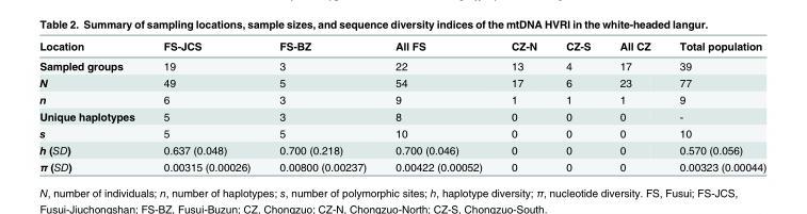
<table><thead><tr><td>Location</td><td>FS-JCS</td><td>FS-BZ</td><td>All FS</td><td>CZ-N</td><td>CZ-S</td><td>All CZ</td><td>Total population</td></tr></thead><tbody><tr><td>Sampled groups</td><td>19</td><td>3</td><td>22</td><td>13</td><td>4</td><td>17</td><td>39</td></tr><tr><td>N</td><td>49</td><td>5</td><td>54</td><td>17</td><td>6</td><td>23</td><td>77</td></tr><tr><td>n</td><td>6</td><td>3</td><td>9</td><td>1</td><td>1</td><td>1</td><td>9</td></tr><tr><td>Unique haplotypes</td><td>5</td><td>3</td><td>8</td><td>0</td><td>0</td><td>0</td><td>-</td></tr><tr><td>s</td><td>5</td><td>5</td><td>10</td><td>0</td><td>0</td><td>0</td><td>10</td></tr><tr><td>h (SD)</td><td>0.637 (0.048)</td><td>0.700 (0.218)</td><td>0.700 (0.046)</td><td>0</td><td>0</td><td>0</td><td>0.570 (0.056)</td></tr><tr><td>π (SD)</td><td>0.00315 (0.00026)</td><td>0.00800 (0.00237)</td><td>0.00422 (0.00052)</td><td>0</td><td>0</td><td>0</td><td>0.00323 (0.00044)</td></tr></tbody></table>